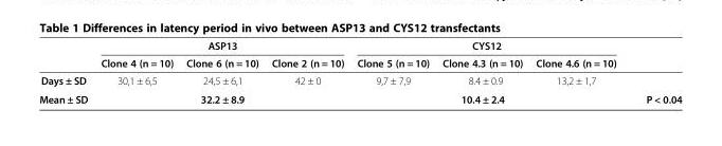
<table><thead><tr><td rowspan="2"></td><td colspan="3">ASP13</td><td colspan="3">CYS12</td><td rowspan="2"></td></tr><tr><td>Clone 4 (n = 10)</td><td>Clone 6 (n = 10)</td><td>Clone 2 (n = 10)</td><td>Clone 5 (n = 10)</td><td>Clone 4.3 (n = 10)</td><td>Clone 4.6 (n = 10)</td></tr></thead><tbody><tr><td>Days ± SD</td><td>30,1 ± 6,5</td><td>24,5 ± 6,1</td><td>42 ± 0</td><td>9,7 ± 7,9</td><td>8.4 ± 0.9</td><td>13,2 ± 1,7</td><td></td></tr><tr><td>Mean ± SD</td><td></td><td>32.2 ± 8.9</td><td></td><td></td><td>10.4 ± 2.4</td><td></td><td>P &lt; 0.04</td></tr></tbody></table>